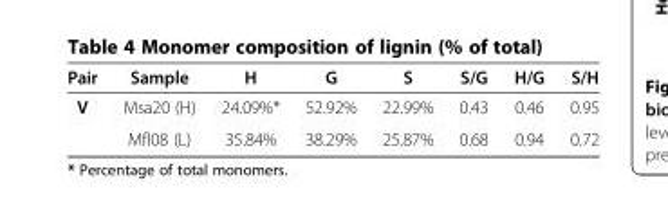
<table><thead><tr><td>Pair</td><td>Sample</td><td>H</td><td>G</td><td>S</td><td>S/G</td><td>H/G</td><td>S/H</td></tr></thead><tbody><tr><td rowspan="2">V</td><td>Msa20 (H)</td><td>24.09%*</td><td>52.92%</td><td>22.99%</td><td>0.43</td><td>0.46</td><td>0.95</td></tr><tr><td>Mfl08 (L)</td><td>35.84%</td><td>38.29%</td><td>25.87%</td><td>0.68</td><td>0.94</td><td>0.72</td></tr></tbody></table>